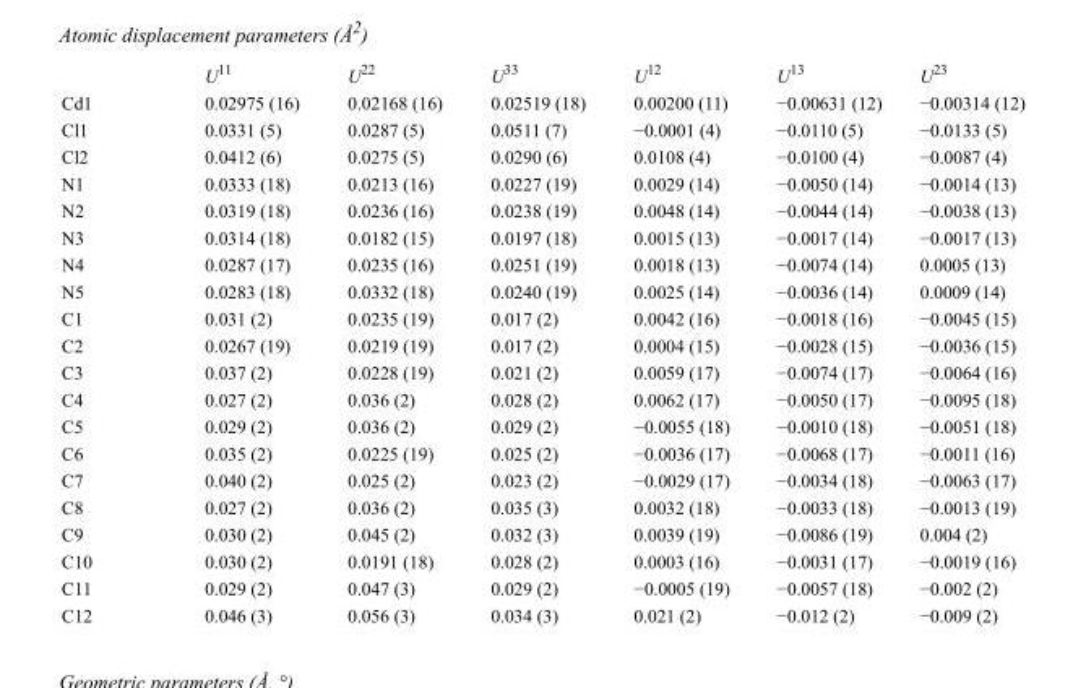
<table><thead><tr><td></td><td>U<sup>11</sup></td><td>U<sup>22</sup></td><td>U<sup>33</sup></td><td>U<sup>12</sup></td><td>U<sup>13</sup></td><td>U<sup>23</sup></td></tr></thead><tbody><tr><td>Cd1</td><td>0.02975 (16)</td><td>0.02168 (16)</td><td>0.02519 (18)</td><td>0.00200 (11)</td><td>−0.00631 (12)</td><td>−0.00314 (12)</td></tr><tr><td>Cl1</td><td>0.0331 (5)</td><td>0.0287 (5)</td><td>0.0511 (7)</td><td>−0.0001 (4)</td><td>−0.0110 (5)</td><td>−0.0133 (5)</td></tr><tr><td>Cl2</td><td>0.0412 (6)</td><td>0.0275 (5)</td><td>0.0290 (6)</td><td>0.0108 (4)</td><td>−0.0100 (4)</td><td>−0.0087 (4)</td></tr><tr><td>N1</td><td>0.0333 (18)</td><td>0.0213 (16)</td><td>0.0227 (19)</td><td>0.0029 (14)</td><td>−0.0050 (14)</td><td>−0.0014 (13)</td></tr><tr><td>N2</td><td>0.0319 (18)</td><td>0.0236 (16)</td><td>0.0238 (19)</td><td>0.0048 (14)</td><td>−0.0044 (14)</td><td>−0.0038 (13)</td></tr><tr><td>N3</td><td>0.0314 (18)</td><td>0.0182 (15)</td><td>0.0197 (18)</td><td>0.0015 (13)</td><td>−0.0017 (14)</td><td>−0.0017 (13)</td></tr><tr><td>N4</td><td>0.0287 (17)</td><td>0.0235 (16)</td><td>0.0251 (19)</td><td>0.0018 (13)</td><td>−0.0074 (14)</td><td>0.0005 (13)</td></tr><tr><td>N5</td><td>0.0283 (18)</td><td>0.0332 (18)</td><td>0.0240 (19)</td><td>0.0025 (14)</td><td>−0.0036 (14)</td><td>0.0009 (14)</td></tr><tr><td>C1</td><td>0.031 (2)</td><td>0.0235 (19)</td><td>0.017 (2)</td><td>0.0042 (16)</td><td>−0.0018 (16)</td><td>−0.0045 (15)</td></tr><tr><td>C2</td><td>0.0267 (19)</td><td>0.0219 (19)</td><td>0.017 (2)</td><td>0.0004 (15)</td><td>−0.0028 (15)</td><td>−0.0036 (15)</td></tr><tr><td>C3</td><td>0.037 (2)</td><td>0.0228 (19)</td><td>0.021 (2)</td><td>0.0059 (17)</td><td>−0.0074 (17)</td><td>−0.0064 (16)</td></tr><tr><td>C4</td><td>0.027 (2)</td><td>0.036 (2)</td><td>0.028 (2)</td><td>0.0062 (17)</td><td>−0.0050 (17)</td><td>−0.0095 (18)</td></tr><tr><td>C5</td><td>0.029 (2)</td><td>0.036 (2)</td><td>0.029 (2)</td><td>−0.0055 (18)</td><td>−0.0010 (18)</td><td>−0.0051 (18)</td></tr><tr><td>C6</td><td>0.035 (2)</td><td>0.0225 (19)</td><td>0.025 (2)</td><td>−0.0036 (17)</td><td>−0.0068 (17)</td><td>−0.0011 (16)</td></tr><tr><td>C7</td><td>0.040 (2)</td><td>0.025 (2)</td><td>0.023 (2)</td><td>−0.0029 (17)</td><td>−0.0034 (18)</td><td>−0.0063 (17)</td></tr><tr><td>C8</td><td>0.027 (2)</td><td>0.036 (2)</td><td>0.035 (3)</td><td>0.0032 (18)</td><td>−0.0033 (18)</td><td>−0.0013 (19)</td></tr><tr><td>C9</td><td>0.030 (2)</td><td>0.045 (2)</td><td>0.032 (3)</td><td>0.0039 (19)</td><td>−0.0086 (19)</td><td>0.004 (2)</td></tr><tr><td>C10</td><td>0.030 (2)</td><td>0.0191 (18)</td><td>0.028 (2)</td><td>0.0003 (16)</td><td>−0.0031 (17)</td><td>−0.0019 (16)</td></tr><tr><td>C11</td><td>0.029 (2)</td><td>0.047 (3)</td><td>0.029 (2)</td><td>−0.0005 (19)</td><td>−0.0057 (18)</td><td>−0.002 (2)</td></tr><tr><td>C12</td><td>0.046 (3)</td><td>0.056 (3)</td><td>0.034 (3)</td><td>0.021 (2)</td><td>−0.012 (2)</td><td>−0.009 (2)</td></tr></tbody></table>